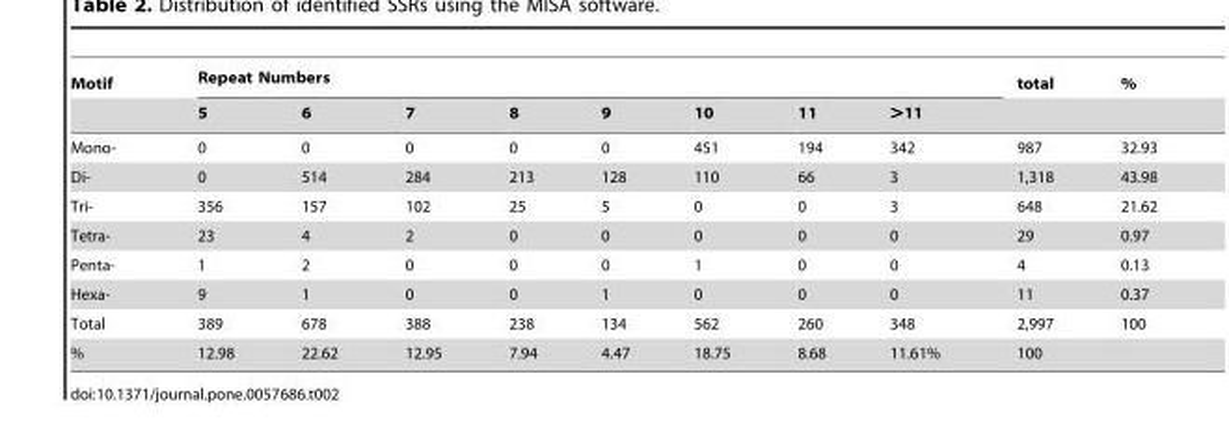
<table><thead><tr><td rowspan="2">Motif</td><td colspan="8">Repeat Numbers</td><td rowspan="2">total</td><td rowspan="2">%</td></tr><tr><td>5</td><td>6</td><td>7</td><td>8</td><td>9</td><td>10</td><td>11</td><td>&gt;11</td></tr></thead><tbody><tr><td>Mono-</td><td>0</td><td>0</td><td>0</td><td>0</td><td>0</td><td>451</td><td>194</td><td>342</td><td>987</td><td>32.93</td></tr><tr><td>Di-</td><td>0</td><td>514</td><td>284</td><td>213</td><td>128</td><td>110</td><td>66</td><td>3</td><td>1,318</td><td>43.98</td></tr><tr><td>Tri-</td><td>356</td><td>157</td><td>102</td><td>25</td><td>5</td><td>0</td><td>0</td><td>3</td><td>648</td><td>21.62</td></tr><tr><td>Tetra-</td><td>23</td><td>4</td><td>2</td><td>0</td><td>0</td><td>0</td><td>0</td><td>0</td><td>29</td><td>0.97</td></tr><tr><td>Penta-</td><td>1</td><td>2</td><td>0</td><td>0</td><td>0</td><td>1</td><td>0</td><td>0</td><td>4</td><td>0.13</td></tr><tr><td>Hexa-</td><td>9</td><td>1</td><td>0</td><td>0</td><td>1</td><td>0</td><td>0</td><td>0</td><td>11</td><td>0.37</td></tr><tr><td>Total</td><td>389</td><td>678</td><td>388</td><td>238</td><td>134</td><td>562</td><td>260</td><td>348</td><td>2,997</td><td>100</td></tr><tr><td>%</td><td>12.98</td><td>22.62</td><td>12.95</td><td>7.94</td><td>4.47</td><td>18.75</td><td>8.68</td><td>11.61%</td><td>100</td><td></td></tr></tbody></table>